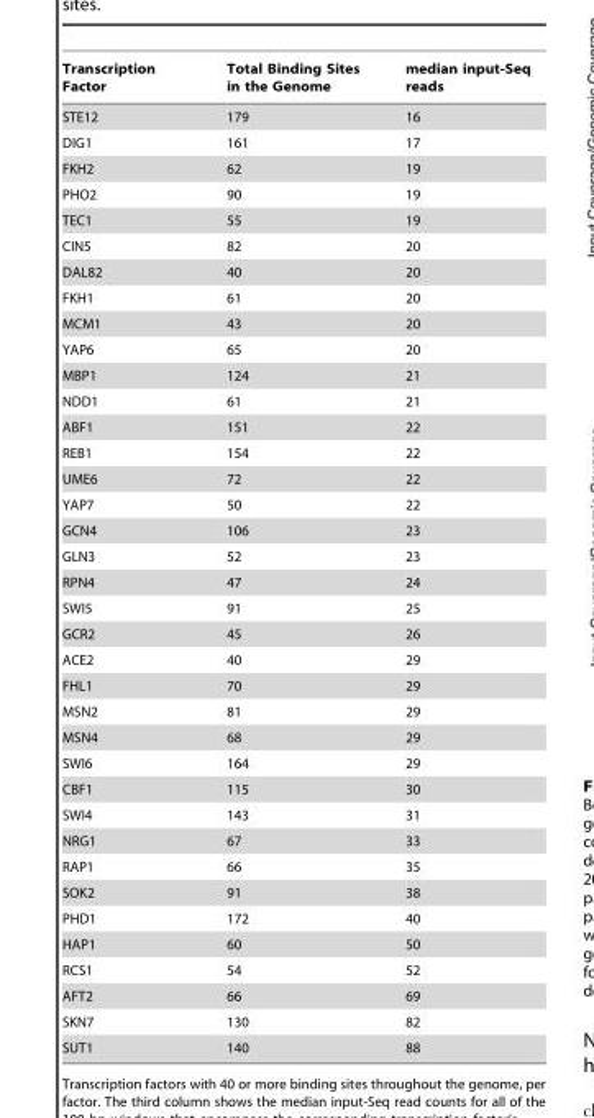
<table><thead><tr><td>Transcription Factor</td><td>Total Binding Sites in the Genome</td><td>median input-Seq reads</td></tr></thead><tbody><tr><td>STE12</td><td>179</td><td>16</td></tr><tr><td>DIG1</td><td>161</td><td>17</td></tr><tr><td>FKH2</td><td>62</td><td>19</td></tr><tr><td>PHO2</td><td>90</td><td>19</td></tr><tr><td>TEC1</td><td>55</td><td>19</td></tr><tr><td>CIN5</td><td>82</td><td>20</td></tr><tr><td>DAL82</td><td>40</td><td>20</td></tr><tr><td>FKH1</td><td>61</td><td>20</td></tr><tr><td>MCM1</td><td>43</td><td>20</td></tr><tr><td>YAP6</td><td>65</td><td>20</td></tr><tr><td>MBP1</td><td>124</td><td>21</td></tr><tr><td>NDD1</td><td>61</td><td>21</td></tr><tr><td>ABF1</td><td>151</td><td>22</td></tr><tr><td>REB1</td><td>154</td><td>22</td></tr><tr><td>UME6</td><td>72</td><td>22</td></tr><tr><td>YAP7</td><td>50</td><td>22</td></tr><tr><td>GCN4</td><td>106</td><td>23</td></tr><tr><td>GLN3</td><td>52</td><td>23</td></tr><tr><td>RPN4</td><td>47</td><td>24</td></tr><tr><td>SWI5</td><td>91</td><td>25</td></tr><tr><td>GCR2</td><td>45</td><td>26</td></tr><tr><td>ACE2</td><td>40</td><td>29</td></tr><tr><td>FHL1</td><td>70</td><td>29</td></tr><tr><td>MSN2</td><td>81</td><td>29</td></tr><tr><td>MSN4</td><td>68</td><td>29</td></tr><tr><td>SWI6</td><td>164</td><td>29</td></tr><tr><td>CBF1</td><td>115</td><td>30</td></tr><tr><td>SWI4</td><td>143</td><td>31</td></tr><tr><td>NRG1</td><td>67</td><td>33</td></tr><tr><td>RAP1</td><td>66</td><td>35</td></tr><tr><td>SOK2</td><td>91</td><td>38</td></tr><tr><td>PHD1</td><td>172</td><td>40</td></tr><tr><td>HAP1</td><td>60</td><td>50</td></tr><tr><td>RCS1</td><td>54</td><td>52</td></tr><tr><td>AFT2</td><td>66</td><td>69</td></tr><tr><td>SKN7</td><td>130</td><td>82</td></tr><tr><td>SUT1</td><td>140</td><td>88</td></tr></tbody></table>